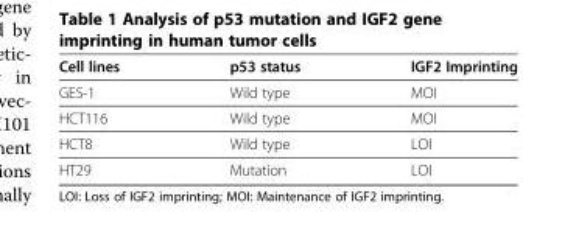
<table><thead><tr><td>Cell lines</td><td>p53 status</td><td>IGF2 Imprinting</td></tr></thead><tbody><tr><td>GES-1</td><td>Wild type</td><td>MOI</td></tr><tr><td>HCT116</td><td>Wild type</td><td>MOI</td></tr><tr><td>HCT8</td><td>Wild type</td><td>LOI</td></tr><tr><td>HT29</td><td>Mutation</td><td>LOI</td></tr></tbody></table>